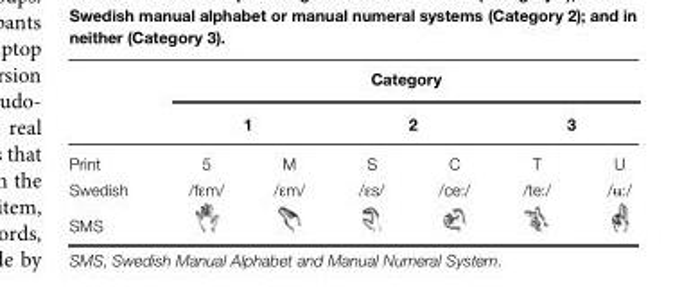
<table><thead><tr><td rowspan="3">Print</td><td colspan="6">Category</td></tr><tr><td colspan="2">1</td><td colspan="2">2</td><td colspan="2">3</td></tr><tr><td>5</td><td>M</td><td>S</td><td>C</td><td>T</td><td>U</td></tr></thead><tbody><tr><td>Swedish</td><td>/fεm/</td><td>/εm/</td><td>/εs/</td><td>/ce:/</td><td>/te:/</td><td>/0:/</td></tr><tr><td>SMS</td><td></td><td></td><td></td><td></td><td></td><td></td></tr></tbody></table>